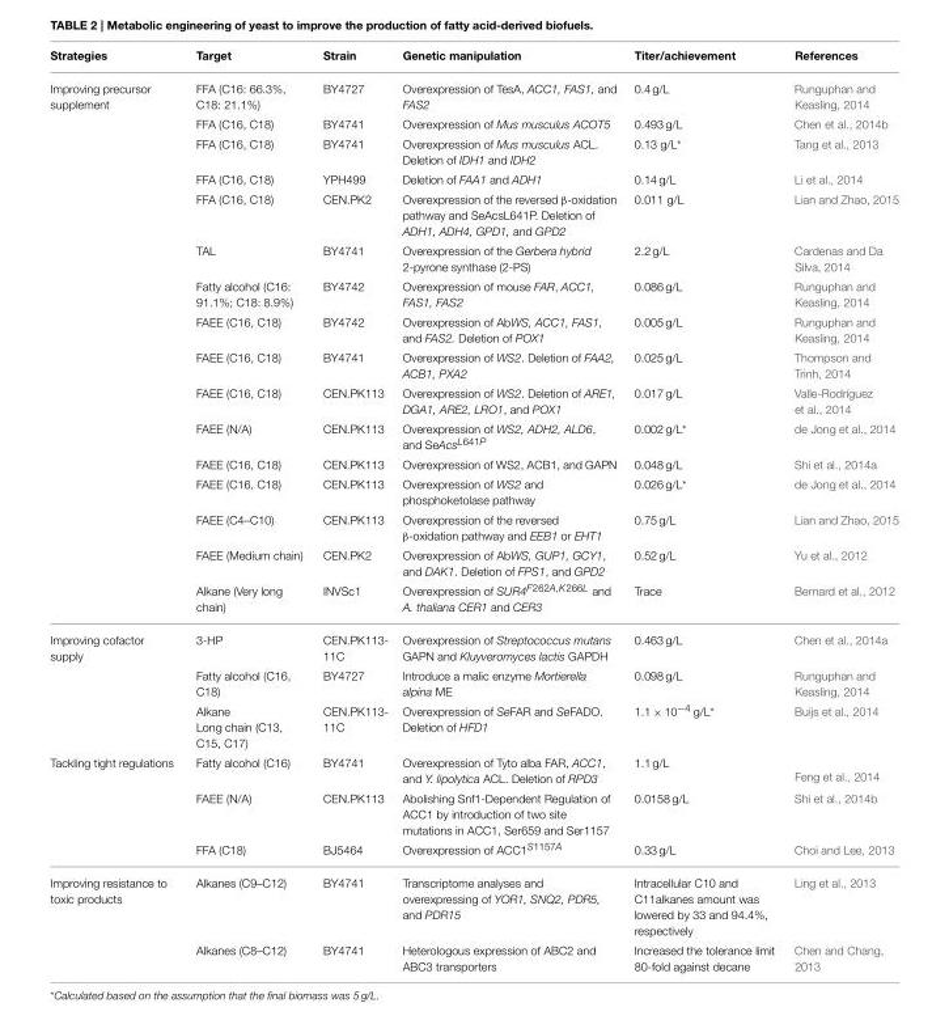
<table><thead><tr><td>Strategies</td><td>Target</td><td>Strain</td><td>Genetic manipulation</td><td>Titer/achievement</td><td>References</td></tr></thead><tbody><tr><td rowspan="16">Improving precursor supplement</td><td>FFA (C16: 66.3%, C18: 21.1%)</td><td>BY4727</td><td>Overexpression of TesA, ACC1, FAS1, and FAS2</td><td>0.4 g/L</td><td>Runguphan and Keasling, 2014</td></tr><tr><td>FFA (C16, C18)</td><td>BY4741</td><td>Overexpression of Mus musculus ACOT5</td><td>0.493 g/L</td><td>Chen et al., 2014b</td></tr><tr><td>FFA (C16, C18)</td><td>BY4741</td><td>Overexpression of Mus musculus ACL. Deletion of IDH1 and IDH2</td><td>0.13 g/L*</td><td>Tang et al., 2013</td></tr><tr><td>FFA (C16, C18)</td><td>YPH499</td><td>Deletion of FAA1 and ADH1</td><td>0.14 g/L</td><td>Li et al., 2014</td></tr><tr><td>FFA (C16, C18)</td><td>CEN.PK2</td><td>Overexpression of the reversed β-oxidation pathway and SeAcsL641P. Deletion of ADH1, ADH4, GPD1, and GPD2</td><td>0.011 g/L</td><td>Lian and Zhao, 2015</td></tr><tr><td>TAL</td><td>BY4741</td><td>Overexpression of the Gerbera hybrid 2-pyrone synthase (2-PS)</td><td>2.2 g/L</td><td>Cardenas and Da Silva, 2014</td></tr><tr><td>Fatty alcohol (C16: 91.1%; C18: 8.9%)</td><td>BY4742</td><td>Overexpression of mouse FAR, ACC1, FAS1, FAS2</td><td>0.086 g/L</td><td>Runguphan and Keasling, 2014</td></tr><tr><td>FAEE (C16, C18)</td><td>BY4742</td><td>Overexpression of AbWS, ACC1, FAS1, and FAS2. Deletion of POX1</td><td>0.005 g/L</td><td>Runguphan and Keasling, 2014</td></tr><tr><td>FAEE (C16, C18)</td><td>BY4741</td><td>Overexpression of WS2. Deletion of FAA2, ACB1, PXA2</td><td>0.025 g/L</td><td>Thompson and Trinh, 2014</td></tr><tr><td>FAEE (C16, C18)</td><td>CEN.PK113</td><td>Overexpression of WS2. Deletion of ARE1, DGA1, ARE2, LRO1, and POX1</td><td>0.017 g/L</td><td>Valle-Rodríguez et al., 2014</td></tr><tr><td>FAEE (N/A)</td><td>CEN.PK113</td><td>Overexpression of WS2, ADH2, ALD6, and SeAcs<sup>L641P</sup></td><td>0.002 g/L*</td><td>de Jong et al., 2014</td></tr><tr><td>FAEE (C16, C18)</td><td>CEN.PK113</td><td>Overexpression of WS2, ACB1, and GAPN</td><td>0.048 g/L</td><td>Shi et al., 2014a</td></tr><tr><td>FAEE (C16, C18)</td><td>CEN.PK113</td><td>Overexpression of WS2 and phosphoketolase pathway</td><td>0.026 g/L*</td><td>de Jong et al., 2014</td></tr><tr><td>FAEE (C4–C10)</td><td>CEN.PK113</td><td>Overexpression of the reversed β-oxidation pathway and EEB1 or EHT1</td><td>0.75 g/L</td><td>Lian and Zhao, 2015</td></tr><tr><td>FAEE (Medium chain)</td><td>CEN.PK2</td><td>Overexpression of AbWS, GUP1, GCY1, and DAK1. Deletion of FPS1, and GPD2</td><td>0.52 g/L</td><td>Yu et al., 2012</td></tr><tr><td>Alkane (Very long chain)</td><td>INVSc1</td><td>Overexpression of SUR4<sup>F262A,K266L</sup> and A. thaliana CER1 and CER3</td><td>Trace</td><td>Bernard et al., 2012</td></tr><tr><td rowspan="3">Improving cofactor supply</td><td>3-HP</td><td>CEN.PK113- 11C</td><td>Overexpression of Streptococcus mutans GAPN and Kluyveromyces lactis GAPDH</td><td>0.463 g/L</td><td>Chen et al., 2014a</td></tr><tr><td>Fatty alcohol (C16, C18)</td><td>BY4727</td><td>Introduce a malic enzyme Mortierella alpina ME</td><td>0.098 g/L</td><td>Runguphan and Keasling, 2014</td></tr><tr><td>Alkane Long chain (C13, C15, C17)</td><td>CEN.PK113- 11C</td><td>Overexpression of SeFAR and SeFADO. Deletion of HFD1</td><td>1.1 × 10<sup>−4</sup> g/L*</td><td>Buijs et al., 2014</td></tr><tr><td rowspan="3">Tackling tight regulations</td><td>Fatty alcohol (C16)</td><td>BY4741</td><td>Overexpression of Tyto alba FAR, ACC1, and Y. lipolytica ACL. Deletion of RPD3</td><td>1.1 g/L</td><td>Feng et al., 2014</td></tr><tr><td>FAEE (N/A)</td><td>CEN.PK113</td><td>Abolishing Snf1-Dependent Regulation of ACC1 by introduction of two site mutations in ACC1, Ser659 and Ser1157</td><td>0.0158 g/L</td><td>Shi et al., 2014b</td></tr><tr><td>FFA (C18)</td><td>BJ5464</td><td>Overexpression of ACC1<sup>S1157A</sup></td><td>0.33 g/L</td><td>Choi and Lee, 2013</td></tr><tr><td rowspan="2">Improving resistance to toxic products</td><td>Alkanes (C9–C12)</td><td>BY4741</td><td>Transcriptome analyses and overexpressing of YOR1, SNQ2, PDR5, and PDR15</td><td>Intracellular C10 and C11alkanes amount was lowered by 33 and 94.4%, respectively</td><td>Ling et al., 2013</td></tr><tr><td>Alkanes (C8–C12)</td><td>BY4741</td><td>Heterologous expression of ABC2 and ABC3 transporters</td><td>Increased the tolerance limit 80-fold against decane</td><td>Chen and Chang, 2013</td></tr></tbody></table>